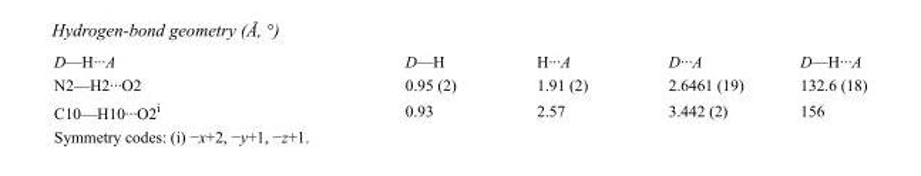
<table><tbody><tr><td>D—H···A</td><td>D—H</td><td>H···A</td><td>D···A</td><td>D—H···A</td></tr><tr><td>N2—H2···O2</td><td>0.95 (2)</td><td>1.91 (2)</td><td>2.6461 (19)</td><td>132.6 (18)</td></tr><tr><td>C10—H10···O2<sup>i</sup></td><td>0.93</td><td>2.57</td><td>3.442 (2)</td><td>156</td></tr></tbody></table>